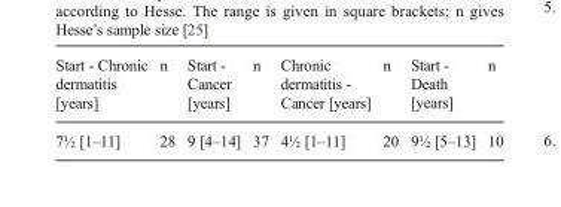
<table><thead><tr><td>Start - Chronic dermatitis [years]</td><td>n</td><td>Start - Cancer [years]</td><td>n</td><td>Chronic dermatitis - Cancer [years]</td><td>n</td><td>Start - Death [years]</td><td>n</td></tr></thead><tbody><tr><td>7½ [1–11]</td><td>28</td><td>9 [4–14]</td><td>37</td><td>4½ [1–11]</td><td>20</td><td>9½ [5–13]</td><td>10</td></tr></tbody></table>